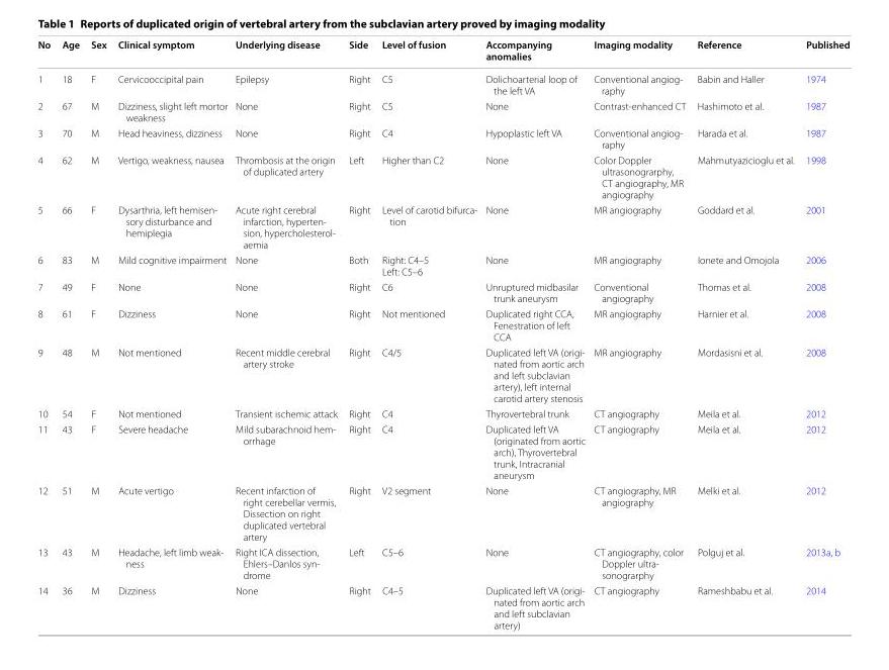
<table><thead><tr><td>No</td><td>Age</td><td>Sex</td><td>Clinical symptom</td><td>Underlying disease</td><td>Side</td><td>Level of fusion</td><td>Accompanying anomalies</td><td>Imaging modality</td><td>Reference</td><td>Published</td></tr></thead><tbody><tr><td>1</td><td>18</td><td>F</td><td>Cervicooccipital pain</td><td>Epilepsy</td><td>Right</td><td>C5</td><td>Dolichoarterial loop of the left VA</td><td>Conventional angiog- raphy</td><td>Babin and Haller</td><td>1974</td></tr><tr><td>2</td><td>67</td><td>M</td><td>Dizziness, slight left mortor weakness</td><td>None</td><td>Right</td><td>C5</td><td>None</td><td>Contrast-enhanced CT</td><td>Hashimoto et al.</td><td>1987</td></tr><tr><td>3</td><td>70</td><td>M</td><td>Head heaviness, dizziness</td><td>None</td><td>Right</td><td>C4</td><td>Hypoplastic left VA</td><td>Conventional angiog- raphy</td><td>Harada et al.</td><td>1987</td></tr><tr><td>4</td><td>62</td><td>M</td><td>Vertigo, weakness, nausea</td><td>Thrombosis at the origin of duplicated artery</td><td>Left</td><td>Higher than C2</td><td>None</td><td>Color Doppler ultrasonograrphy, CT angiography, MR angiography</td><td>Mahmutyazicioglu et al.</td><td>1998</td></tr><tr><td>5</td><td>66</td><td>F</td><td>Dysarthria, left hemisen- sory disturbance and hemiplegia</td><td>Acute right cerebral infarction, hyperten- sion, hypercholesterol- aemia</td><td>Right</td><td>Level of carotid bifurca- tion</td><td>None</td><td>MR angiography</td><td>Goddard et al.</td><td>2001</td></tr><tr><td>6</td><td>83</td><td>M</td><td>Mild cognitive impairment</td><td>None</td><td>Both</td><td>Right: C4–5 Left: C5–6</td><td>None</td><td>MR angiography</td><td>Ionete and Omojola</td><td>2006</td></tr><tr><td>7</td><td>49</td><td>F</td><td>None</td><td>None</td><td>Right</td><td>C6</td><td>Unruptured midbasilar trunk aneurysm</td><td>Conventional angiography</td><td>Thomas et al.</td><td>2008</td></tr><tr><td>8</td><td>61</td><td>F</td><td>Dizziness</td><td>None</td><td>Right</td><td>Not mentioned</td><td>Duplicated right CCA, Fenestration of left CCA</td><td>MR angiography</td><td>Harnier et al.</td><td>2008</td></tr><tr><td>9</td><td>48</td><td>M</td><td>Not mentioned</td><td>Recent middle cerebral artery stroke</td><td>Right</td><td>C4/5</td><td>Duplicated left VA (origi- nated from aortic arch and left subclavian artery), left internal carotid artery stenosis</td><td>MR angiography</td><td>Mordasisni et al.</td><td>2008</td></tr><tr><td>10</td><td>54</td><td>F</td><td>Not mentioned</td><td>Transient ischemic attack</td><td>Right</td><td>C4</td><td>Thyrovertebral trunk</td><td>CT angiography</td><td>Meila et al.</td><td>2012</td></tr><tr><td>11</td><td>43</td><td>F</td><td>Severe headache</td><td>Mild subarachnoid hem- orrhage</td><td>Right</td><td>C4</td><td>Duplicated left VA (originated from aortic arch), Thyrovertebral trunk, Intracranial aneurysm</td><td>CT angiography</td><td>Meila et al.</td><td>2012</td></tr><tr><td>12</td><td>51</td><td>M</td><td>Acute vertigo</td><td>Recent infarction of right cerebellar vermis, Dissection on right duplicated vertebral artery</td><td>Right</td><td>V2 segment</td><td>None</td><td>CT angiography, MR angiography</td><td>Melki et al.</td><td>2012</td></tr><tr><td>13</td><td>43</td><td>M</td><td>Headache, left limb weak- ness</td><td>Right ICA dissection, Ehlers–Danlos syn- drome</td><td>Left</td><td>C5–6</td><td>None</td><td>CT angiography, color Doppler ultra- sonograrphy</td><td>Polguj et al.</td><td>2013a, b</td></tr><tr><td>14</td><td>36</td><td>M</td><td>Dizziness</td><td>None</td><td>Right</td><td>C4–5</td><td>Duplicated left VA (origi- nated from aortic arch and left subclavian artery)</td><td>CT angiography</td><td>Rameshbabu et al.</td><td>2014</td></tr></tbody></table>